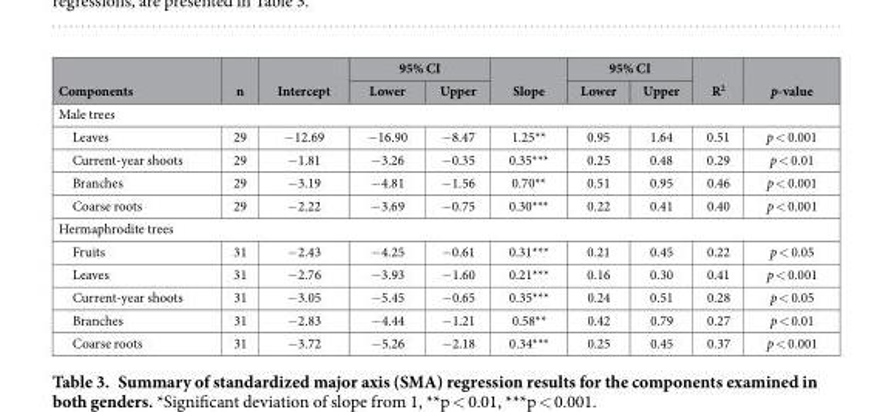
<table><thead><tr><td rowspan="2">Components</td><td rowspan="2">n</td><td rowspan="2">Intercept</td><td colspan="2">95% CI</td><td rowspan="2">Slope</td><td colspan="2">95% CI</td><td rowspan="2">R<sup>2</sup></td><td rowspan="2">p-value</td></tr><tr><td>Lower</td><td>Upper</td><td>Lower</td><td>Upper</td></tr></thead><tbody><tr><td colspan="10">Male trees</td></tr><tr><td>Leaves</td><td>29</td><td>− 12.69</td><td>− 16.90</td><td>− 8.47</td><td>1.25**</td><td>0.95</td><td>1.64</td><td>0.51</td><td>p &lt; 0.001</td></tr><tr><td>Current-year shoots</td><td>29</td><td>− 1.81</td><td>− 3.26</td><td>− 0.35</td><td>0.35***</td><td>0.25</td><td>0.48</td><td>0.29</td><td>p &lt; 0.01</td></tr><tr><td>Branches</td><td>29</td><td>− 3.19</td><td>− 4.81</td><td>− 1.56</td><td>0.70**</td><td>0.51</td><td>0.95</td><td>0.46</td><td>p &lt; 0.001</td></tr><tr><td>Coarse roots</td><td>29</td><td>− 2.22</td><td>− 3.69</td><td>− 0.75</td><td>0.30***</td><td>0.22</td><td>0.41</td><td>0.40</td><td>p &lt; 0.001</td></tr><tr><td colspan="10">Hermaphrodite trees</td></tr><tr><td>Fruits</td><td>31</td><td>− 2.43</td><td>− 4.25</td><td>− 0.61</td><td>0.31***</td><td>0.21</td><td>0.45</td><td>0.22</td><td>p &lt; 0.05</td></tr><tr><td>Leaves</td><td>31</td><td>− 2.76</td><td>− 3.93</td><td>− 1.60</td><td>0.21***</td><td>0.16</td><td>0.30</td><td>0.41</td><td>p &lt; 0.001</td></tr><tr><td>Current-year shoots</td><td>31</td><td>− 3.05</td><td>− 5.45</td><td>− 0.65</td><td>0.35***</td><td>0.24</td><td>0.51</td><td>0.28</td><td>p &lt; 0.05</td></tr><tr><td>Branches</td><td>31</td><td>− 2.83</td><td>− 4.44</td><td>− 1.21</td><td>0.58**</td><td>0.42</td><td>0.79</td><td>0.27</td><td>p &lt; 0.01</td></tr><tr><td>Coarse roots</td><td>31</td><td>− 3.72</td><td>− 5.26</td><td>− 2.18</td><td>0.34***</td><td>0.25</td><td>0.45</td><td>0.37</td><td>p &lt; 0.001</td></tr></tbody></table>